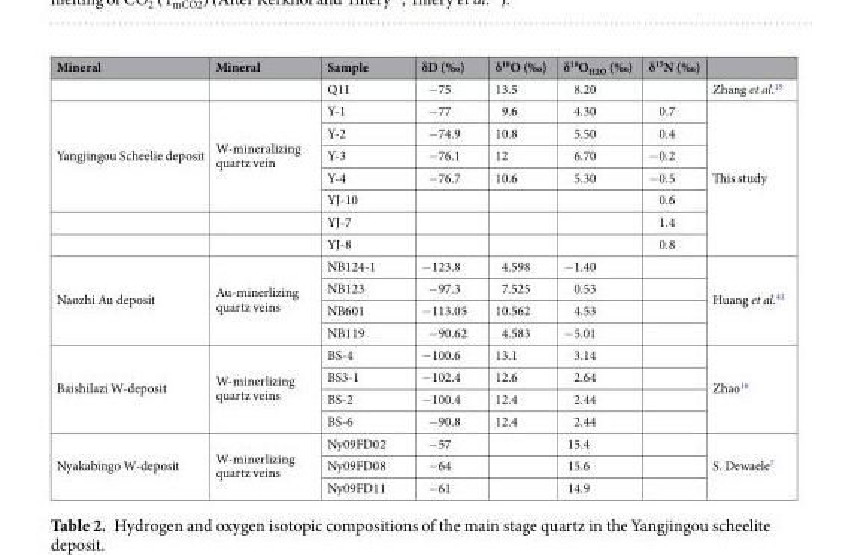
<table><thead><tr><td>Mineral</td><td>Mineral</td><td>Sample</td><td>δD (‰)</td><td>δ<sup>18</sup>O (‰)</td><td>δ<sup>18</sup>O<sub>H2O</sub> (‰)</td><td>δ<sup>15</sup>N (‰)</td><td></td></tr></thead><tbody><tr><td></td><td></td><td>Q11</td><td>−75</td><td>13.5</td><td>8.20</td><td></td><td>Zhang et al.<sup>15</sup></td></tr><tr><td rowspan="7">Yangjingou Scheelie deposit</td><td rowspan="5">W-mineralizing quartz vein</td><td>Y-1</td><td>−77</td><td>9.6</td><td>4.30</td><td>0.7</td><td rowspan="7">This study</td></tr><tr><td>Y-2</td><td>−74.9</td><td>10.8</td><td>5.50</td><td>0.4</td></tr><tr><td>Y-3</td><td>−76.1</td><td>12</td><td>6.70</td><td>−0.2</td></tr><tr><td>Y-4</td><td>−76.7</td><td>10.6</td><td>5.30</td><td>−0.5</td></tr><tr><td>YJ-10</td><td></td><td></td><td></td><td>0.6</td></tr><tr><td></td><td>YJ-7</td><td></td><td></td><td></td><td>1.4</td></tr><tr><td></td><td>YJ-8</td><td></td><td></td><td></td><td>0.8</td></tr><tr><td rowspan="4">Naozhi Au deposit</td><td rowspan="4">Au-minerlizing quartz veins</td><td>NB124-1</td><td>−123.8</td><td>4.598</td><td>−1.40</td><td></td><td rowspan="4">Huang et al.<sup>41</sup></td></tr><tr><td>NB123</td><td>−97.3</td><td>7.525</td><td>0.53</td><td></td></tr><tr><td>NB601</td><td>−113.05</td><td>10.562</td><td>4.53</td><td></td></tr><tr><td>NB119</td><td>−90.62</td><td>4.583</td><td>−5.01</td><td></td></tr><tr><td rowspan="4">Baishilazi W-deposit</td><td rowspan="4">W-minerlizing quartz veins</td><td>BS-4</td><td>−100.6</td><td>13.1</td><td>3.14</td><td></td><td rowspan="4">Zhao<sup>16</sup></td></tr><tr><td>BS3-1</td><td>−102.4</td><td>12.6</td><td>2.64</td><td></td></tr><tr><td>BS-2</td><td>−100.4</td><td>12.4</td><td>2.44</td><td></td></tr><tr><td>BS-6</td><td>−90.8</td><td>12.4</td><td>2.44</td><td></td></tr><tr><td rowspan="3">Nyakabingo W-deposit</td><td rowspan="3">W-minerlizing quartz veins</td><td>Ny09FD02</td><td>−57</td><td></td><td>15.4</td><td></td><td rowspan="3">S. Dewaele<sup>7</sup></td></tr><tr><td>Ny09FD08</td><td>−64</td><td></td><td>15.6</td><td></td></tr><tr><td>Ny09FD11</td><td>−61</td><td></td><td>14.9</td><td></td></tr></tbody></table>